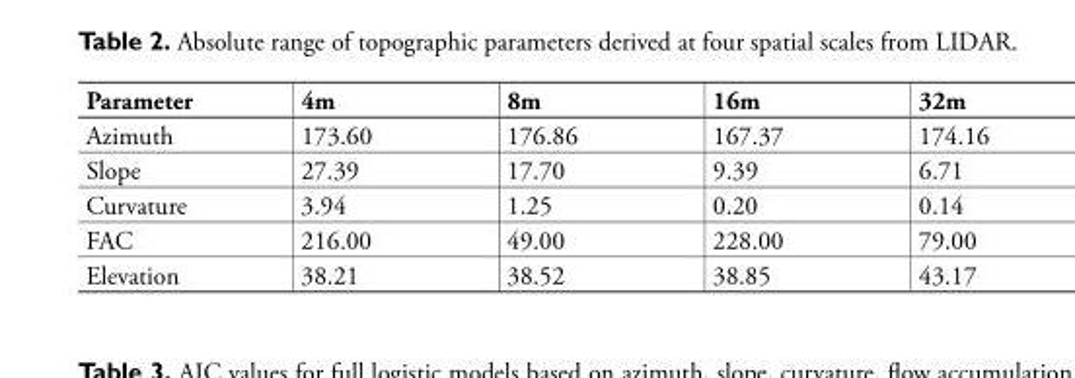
<table><thead><tr><td>Parameter</td><td>4m</td><td>8m</td><td>16m</td><td>32m</td></tr></thead><tbody><tr><td>Azimuth</td><td>173.60</td><td>176.86</td><td>167.37</td><td>174.16</td></tr><tr><td>Slope</td><td>27.39</td><td>17.70</td><td>9.39</td><td>6.71</td></tr><tr><td>Curvature</td><td>3.94</td><td>1.25</td><td>0.20</td><td>0.14</td></tr><tr><td>FAC</td><td>216.00</td><td>49.00</td><td>228.00</td><td>79.00</td></tr><tr><td>Elevation</td><td>38.21</td><td>38.52</td><td>38.85</td><td>43.17</td></tr></tbody></table>